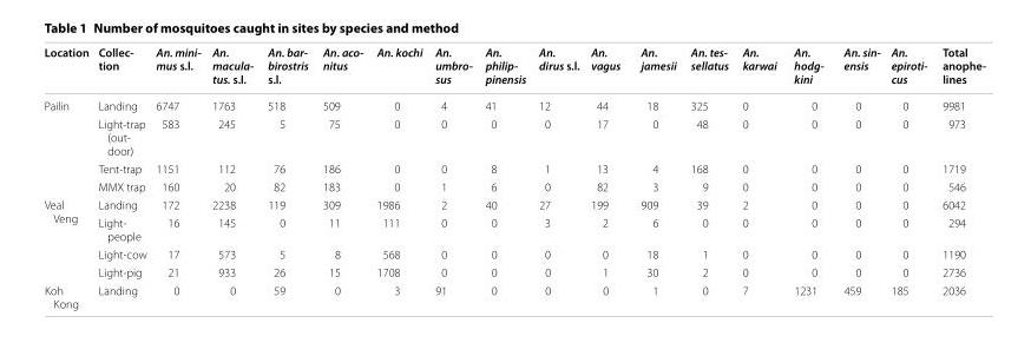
<table><thead><tr><td>Location</td><td>Collec- tion</td><td>An. mini- mus s.l.</td><td>An. macula- tus. s.l.</td><td>An. bar- birostris s.l.</td><td>An. aco- nitus</td><td>An. kochi</td><td>An. umbro- sus</td><td>An. philip- pinensis</td><td>An. dirus s.l.</td><td>An. vagus</td><td>An. jamesii</td><td>An. tes- sellatus</td><td>An. karwai</td><td>An. hodg- kini</td><td>An. sin- ensis</td><td>An. epiroti- cus</td><td>Total anophe- lines</td></tr></thead><tbody><tr><td rowspan="4">Pailin</td><td>Landing</td><td>6747</td><td>1763</td><td>518</td><td>509</td><td>0</td><td>4</td><td>41</td><td>12</td><td>44</td><td>18</td><td>325</td><td>0</td><td>0</td><td>0</td><td>0</td><td>9981</td></tr><tr><td>Light-trap (out- door)</td><td>583</td><td>245</td><td>5</td><td>75</td><td>0</td><td>0</td><td>0</td><td>0</td><td>17</td><td>0</td><td>48</td><td>0</td><td>0</td><td>0</td><td>0</td><td>973</td></tr><tr><td>Tent-trap</td><td>1151</td><td>112</td><td>76</td><td>186</td><td>0</td><td>0</td><td>8</td><td>1</td><td>13</td><td>4</td><td>168</td><td>0</td><td>0</td><td>0</td><td>0</td><td>1719</td></tr><tr><td>MMX trap</td><td>160</td><td>20</td><td>82</td><td>183</td><td>0</td><td>1</td><td>6</td><td>0</td><td>82</td><td>3</td><td>9</td><td>0</td><td>0</td><td>0</td><td>0</td><td>546</td></tr><tr><td rowspan="4">Veal Veng</td><td>Landing</td><td>172</td><td>2238</td><td>119</td><td>309</td><td>1986</td><td>2</td><td>40</td><td>27</td><td>199</td><td>909</td><td>39</td><td>2</td><td>0</td><td>0</td><td>0</td><td>6042</td></tr><tr><td>Light- people</td><td>16</td><td>145</td><td>0</td><td>11</td><td>111</td><td>0</td><td>0</td><td>3</td><td>2</td><td>6</td><td>0</td><td>0</td><td>0</td><td>0</td><td>0</td><td>294</td></tr><tr><td>Light-cow</td><td>17</td><td>573</td><td>5</td><td>8</td><td>568</td><td>0</td><td>0</td><td>0</td><td>0</td><td>18</td><td>1</td><td>0</td><td>0</td><td>0</td><td>0</td><td>1190</td></tr><tr><td>Light-pig</td><td>21</td><td>933</td><td>26</td><td>15</td><td>1708</td><td>0</td><td>0</td><td>0</td><td>1</td><td>30</td><td>2</td><td>0</td><td>0</td><td>0</td><td>0</td><td>2736</td></tr><tr><td>Koh Kong</td><td>Landing</td><td>0</td><td>0</td><td>59</td><td>0</td><td>3</td><td>91</td><td>0</td><td>0</td><td>0</td><td>1</td><td>0</td><td>7</td><td>1231</td><td>459</td><td>185</td><td>2036</td></tr></tbody></table>